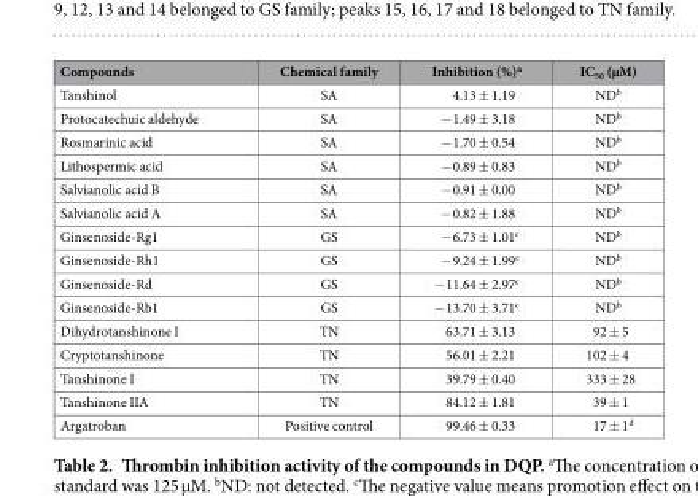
<table><thead><tr><td>Compounds</td><td>Chemical family</td><td>Inhibition (%)<sup>a</sup></td><td>IC<sub>50</sub> (μM)</td></tr></thead><tbody><tr><td>Tanshinol</td><td>SA</td><td>4.13 ± 1.19</td><td>ND<sup>b</sup></td></tr><tr><td>Protocatechuic aldehyde</td><td>SA</td><td>− 1.49 ± 3.18</td><td>ND<sup>b</sup></td></tr><tr><td>Rosmarinic acid</td><td>SA</td><td>− 1.70 ± 0.54</td><td>ND<sup>b</sup></td></tr><tr><td>Lithospermic acid</td><td>SA</td><td>− 0.89 ± 0.83</td><td>ND<sup>b</sup></td></tr><tr><td>Salvianolic acid B</td><td>SA</td><td>− 0.91 ± 0.00</td><td>ND<sup>b</sup></td></tr><tr><td>Salvianolic acid A</td><td>SA</td><td>− 0.82 ± 1.88</td><td>ND<sup>b</sup></td></tr><tr><td>Ginsenoside-Rg1</td><td>GS</td><td>− 6.73 ± 1.01<sup>c</sup></td><td>ND<sup>b</sup></td></tr><tr><td>Ginsenoside-Rh1</td><td>GS</td><td>− 9.24 ± 1.99<sup>c</sup></td><td>ND<sup>b</sup></td></tr><tr><td>Ginsenoside-Rd</td><td>GS</td><td>− 11.64 ± 2.97<sup>c</sup></td><td>ND<sup>b</sup></td></tr><tr><td>Ginsenoside-Rb1</td><td>GS</td><td>− 13.70 ± 3.71<sup>c</sup></td><td>ND<sup>b</sup></td></tr><tr><td>Dihydrotanshinone I</td><td>TN</td><td>63.71 ± 3.13</td><td>92 ± 5</td></tr><tr><td>Cryptotanshinone</td><td>TN</td><td>56.01 ± 2.21</td><td>102 ± 4</td></tr><tr><td>Tanshinone I</td><td>TN</td><td>39.79 ± 0.40</td><td>333 ± 28</td></tr><tr><td>Tanshinone IIA</td><td>TN</td><td>84.12 ± 1.81</td><td>39 ± 1</td></tr><tr><td>Argatroban</td><td>Positive control</td><td>99.46 ± 0.33</td><td>17 ± 1<sup>d</sup></td></tr></tbody></table>